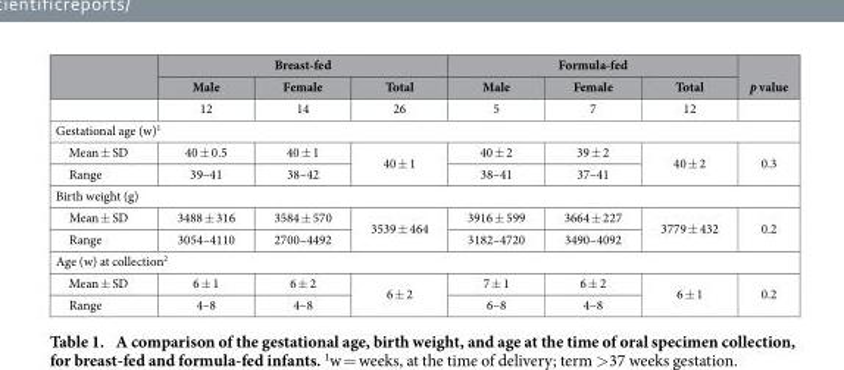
<table><thead><tr><td rowspan="2"></td><td colspan="3">Breast-fed</td><td colspan="3">Formula-fed</td><td rowspan="2">p value</td></tr><tr><td>Male</td><td>Female</td><td>Total</td><td>Male</td><td>Female</td><td>Total</td></tr></thead><tbody><tr><td></td><td>12</td><td>14</td><td>26</td><td>5</td><td>7</td><td>12</td><td></td></tr><tr><td colspan="8">Gestational age (w)<sup>1</sup></td></tr><tr><td>Mean ± SD</td><td>40 ± 0.5</td><td>40 ± 1</td><td rowspan="2">40 ± 1</td><td>40 ± 2</td><td>39 ± 2</td><td rowspan="2">40 ± 2</td><td rowspan="2">0.3</td></tr><tr><td>Range</td><td>39–41</td><td>38–42</td><td>38–41</td><td>37–41</td></tr><tr><td colspan="8">Birth weight (g)</td></tr><tr><td>Mean ± SD</td><td>3488 ± 316</td><td>3584 ± 570</td><td rowspan="2">3539 ± 464</td><td>3916 ± 599</td><td>3664 ± 227</td><td rowspan="2">3779 ± 432</td><td rowspan="2">0.2</td></tr><tr><td>Range</td><td>3054–4110</td><td>2700–4492</td><td>3182–4720</td><td>3490–4092</td></tr><tr><td colspan="8">Age (w) at collection<sup>2</sup></td></tr><tr><td>Mean ± SD</td><td>6 ± 1</td><td>6 ± 2</td><td rowspan="2">6 ± 2</td><td>7 ± 1</td><td>6 ± 2</td><td rowspan="2">6 ± 1</td><td rowspan="2">0.2</td></tr><tr><td>Range</td><td>4–8</td><td>4–8</td><td>6–8</td><td>4–8</td></tr></tbody></table>